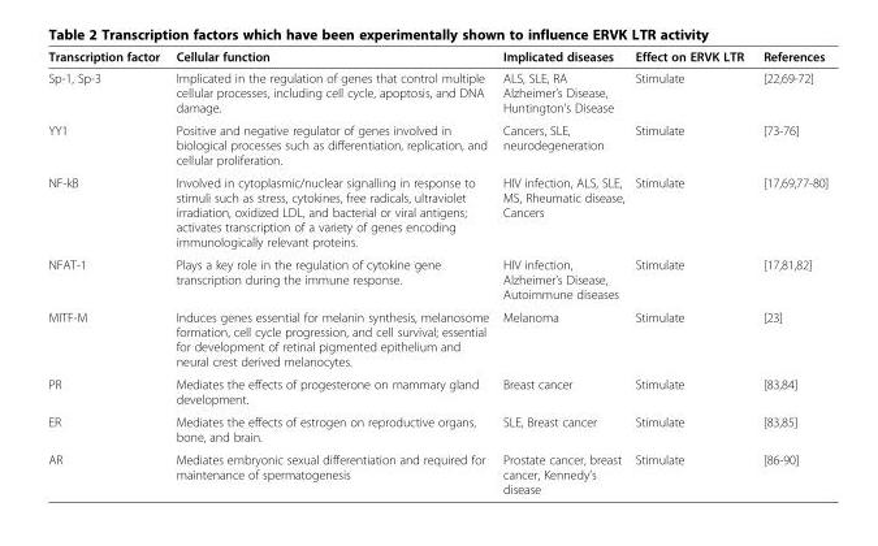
<table><thead><tr><td>Transcription factor</td><td>Cellular function</td><td>Implicated diseases</td><td>Effect on ERVK LTR</td><td>References</td></tr></thead><tbody><tr><td>Sp-1, Sp-3</td><td>Implicated in the regulation of genes that control multiple cellular processes, including cell cycle, apoptosis, and DNA damage.</td><td>ALS, SLE, RA Alzheimer’s Disease, Huntington’s Disease</td><td>Stimulate</td><td>[22,69-72]</td></tr><tr><td>YY1</td><td>Positive and negative regulator of genes involved in biological processes such as differentiation, replication, and cellular proliferation.</td><td>Cancers, SLE, neurodegeneration</td><td>Stimulate</td><td>[73-76]</td></tr><tr><td>NF-kB</td><td>Involved in cytoplasmic/nuclear signalling in response to stimuli such as stress, cytokines, free radicals, ultraviolet irradiation, oxidized LDL, and bacterial or viral antigens; activates transcription of a variety of genes encoding immunologically relevant proteins.</td><td>HIV infection, ALS, SLE, MS, Rheumatic disease, Cancers</td><td>Stimulate</td><td>[17,69,77-80]</td></tr><tr><td>NFAT-1</td><td>Plays a key role in the regulation of cytokine gene transcription during the immune response.</td><td>HIV infection, Alzheimer’s Disease, Autoimmune diseases</td><td>Stimulate</td><td>[17,81,82]</td></tr><tr><td>MITF-M</td><td>Induces genes essential for melanin synthesis, melanosome formation, cell cycle progression, and cell survival; essential for development of retinal pigmented epithelium and neural crest derived melanocytes.</td><td>Melanoma</td><td>Stimulate</td><td>[23]</td></tr><tr><td>PR</td><td>Mediates the effects of progesterone on mammary gland development.</td><td>Breast cancer</td><td>Stimulate</td><td>[83,84]</td></tr><tr><td>ER</td><td>Mediates the effects of estrogen on reproductive organs, bone, and brain.</td><td>SLE, Breast cancer</td><td>Stimulate</td><td>[83,85]</td></tr><tr><td>AR</td><td>Mediates embryonic sexual differentiation and required for maintenance of spermatogenesis</td><td>Prostate cancer, breast cancer, Kennedy’s disease</td><td>Stimulate</td><td>[86-90]</td></tr></tbody></table>